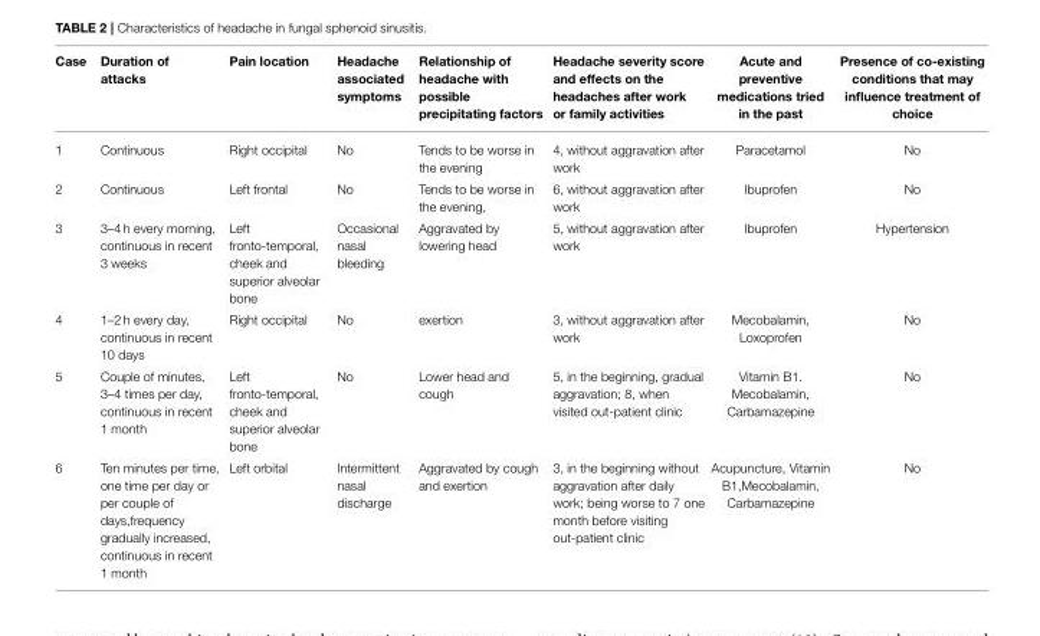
<table><thead><tr><td>Case</td><td>Duration of attacks</td><td>Pain location</td><td>Headache associated symptoms</td><td>Relationship of headache with possible precipitating factors</td><td>Headache severity score and effects on the headaches after work or family activities</td><td>Acute and preventive medications tried in the past</td><td>Presence of co-existing conditions that may influence treatment of choice</td></tr></thead><tbody><tr><td>1</td><td>Continuous</td><td>Right occipital</td><td>No</td><td>Tends to be worse in the evening</td><td>4, without aggravation after work</td><td>Paracetamol</td><td>No</td></tr><tr><td>2</td><td>Continuous</td><td>Left frontal</td><td>No</td><td>Tends to be worse in the evening,</td><td>6, without aggravation after work</td><td>Ibuprofen</td><td>No</td></tr><tr><td>3</td><td>3–4 h every morning, continuous in recent 3 weeks</td><td>Left fronto-temporal, cheek and superior alveolar bone</td><td>Occasional nasal bleeding</td><td>Aggravated by lowering head</td><td>5, without aggravation after work</td><td>Ibuprofen</td><td>Hypertension</td></tr><tr><td>4</td><td>1–2 h every day, continuous in recent 10 days</td><td>Right occipital</td><td>No</td><td>exertion</td><td>3, without aggravation after work</td><td>Mecobalamin, Loxoprofen</td><td>No</td></tr><tr><td>5</td><td>Couple of minutes, 3–4 times per day, continuous in recent 1 month</td><td>Left fronto-temporal, cheek and superior alveolar bone</td><td>No</td><td>Lower head and cough</td><td>5, in the beginning, gradual aggravation; 8, when visited out-patient clinic</td><td>Vitamin B1. Mecobalamin, Carbamazepine</td><td>No</td></tr><tr><td>6</td><td>Ten minutes per time, one time per day or per couple of days,frequency gradually increased, continuous in recent 1 month</td><td>Left orbital</td><td>Intermittent nasal discharge</td><td>Aggravated by cough and exertion</td><td>3, in the beginning without aggravation after daily work; being worse to 7 one month before visiting out-patient clinic</td><td>Acupuncture, Vitamin B1,Mecobalamin, Carbamazepine</td><td>No</td></tr></tbody></table>